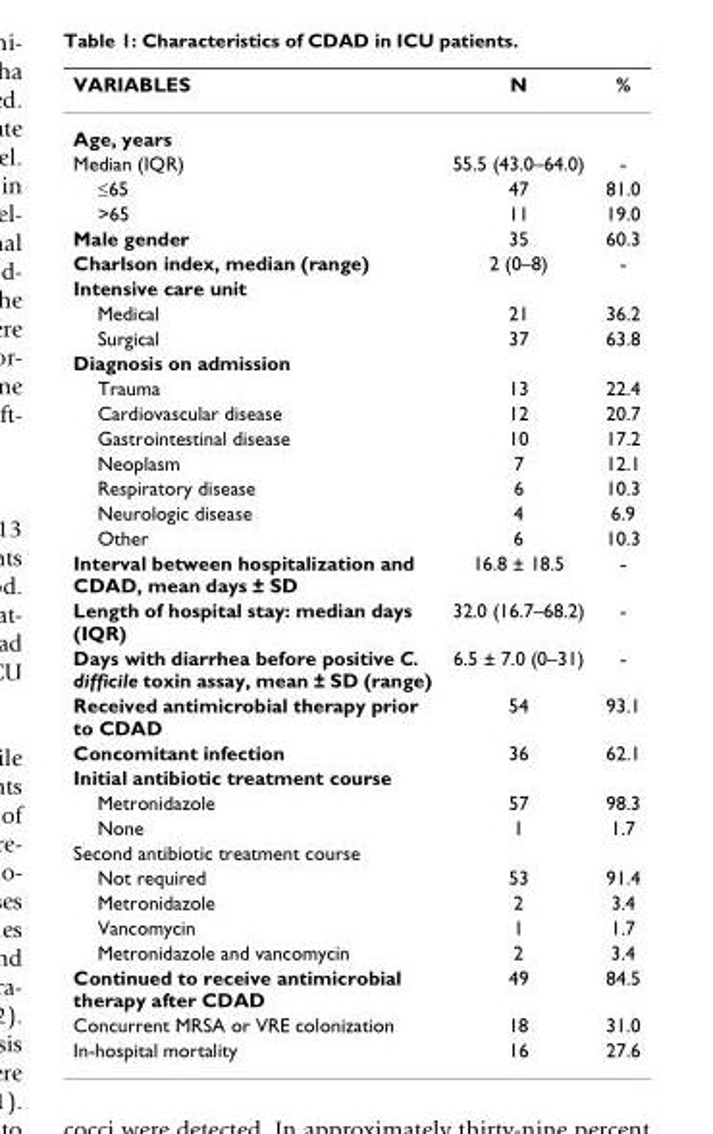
<table><thead><tr><td>VARIABLES</td><td>N</td><td>%</td></tr></thead><tbody><tr><td colspan="3">Age, years</td></tr><tr><td>Median (IQR)</td><td>55.5 (43.0–64.0)</td><td>-</td></tr><tr><td>≤65</td><td>47</td><td>81.0</td></tr><tr><td>&gt;65</td><td>11</td><td>19.0</td></tr><tr><td>Male gender</td><td>35</td><td>60.3</td></tr><tr><td>Charlson index, median (range)</td><td>2 (0–8)</td><td>-</td></tr><tr><td colspan="3">Intensive care unit</td></tr><tr><td>Medical</td><td>21</td><td>36.2</td></tr><tr><td>Surgical</td><td>37</td><td>63.8</td></tr><tr><td colspan="3">Diagnosis on admission</td></tr><tr><td>Trauma</td><td>13</td><td>22.4</td></tr><tr><td>Cardiovascular disease</td><td>12</td><td>20.7</td></tr><tr><td>Gastrointestinal disease</td><td>10</td><td>17.2</td></tr><tr><td>Neoplasm</td><td>7</td><td>12.1</td></tr><tr><td>Respiratory disease</td><td>6</td><td>10.3</td></tr><tr><td>Neurologic disease</td><td>4</td><td>6.9</td></tr><tr><td>Other</td><td>6</td><td>10.3</td></tr><tr><td>Interval between hospitalization and CDAD, mean days ± SD</td><td>16.8 ± 18.5</td><td>-</td></tr><tr><td>Length of hospital stay: median days (IQR)</td><td>32.0 (16.7–68.2)</td><td>-</td></tr><tr><td>Days with diarrhea before positive C. difficile toxin assay, mean ± SD (range)</td><td>6.5 ± 7.0 (0–31)</td><td>-</td></tr><tr><td>Received antimicrobial therapy prior to CDAD</td><td>54</td><td>93.1</td></tr><tr><td>Concomitant infection</td><td>36</td><td>62.1</td></tr><tr><td colspan="3">Initial antibiotic treatment course</td></tr><tr><td>Metronidazole</td><td>57</td><td>98.3</td></tr><tr><td>None</td><td>1</td><td>1.7</td></tr><tr><td colspan="3">Second antibiotic treatment course</td></tr><tr><td>Not required</td><td>53</td><td>91.4</td></tr><tr><td>Metronidazole</td><td>2</td><td>3.4</td></tr><tr><td>Vancomycin</td><td>1</td><td>1.7</td></tr><tr><td>Metronidazole and vancomycin</td><td>2</td><td>3.4</td></tr><tr><td>Continued to receive antimicrobial therapy after CDAD</td><td>49</td><td>84.5</td></tr><tr><td>Concurrent MRSA or VRE colonization</td><td>18</td><td>31.0</td></tr><tr><td>In-hospital mortality</td><td>16</td><td>27.6</td></tr></tbody></table>